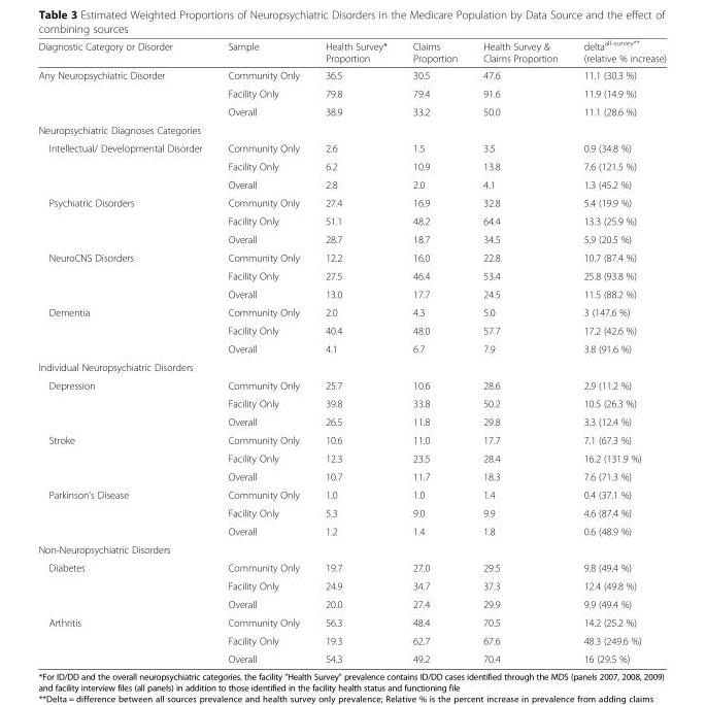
<table><thead><tr><td>Diagnostic Category or Disorder</td><td>Sample</td><td>Health Survey* Proportion</td><td>Claims Proportion</td><td>Health Survey &amp; Claims Proportion</td><td>delta<sup>all-survey**</sup> (relative % increase)</td></tr></thead><tbody><tr><td rowspan="3">Any Neuropsychiatric Disorder</td><td>Community Only</td><td>36.5</td><td>30.5</td><td>47.6</td><td>11.1 (30.3 %)</td></tr><tr><td>Facility Only</td><td>79.8</td><td>79.4</td><td>91.6</td><td>11.9 (14.9 %)</td></tr><tr><td>Overall</td><td>38.9</td><td>33.2</td><td>50.0</td><td>11.1 (28.6 %)</td></tr><tr><td colspan="6">Neuropsychiatric Diagnoses Categories</td></tr><tr><td rowspan="3">Intellectual/ Developmental Disorder</td><td>Community Only</td><td>2.6</td><td>1.5</td><td>3.5</td><td>0.9 (34.8 %)</td></tr><tr><td>Facility Only</td><td>6.2</td><td>10.9</td><td>13.8</td><td>7.6 (121.5 %)</td></tr><tr><td>Overall</td><td>2.8</td><td>2.0</td><td>4.1</td><td>1.3 (45.2 %)</td></tr><tr><td rowspan="3">Psychiatric Disorders</td><td>Community Only</td><td>27.4</td><td>16.9</td><td>32.8</td><td>5.4 (19.9 %)</td></tr><tr><td>Facility Only</td><td>51.1</td><td>48.2</td><td>64.4</td><td>13.3 (25.9 %)</td></tr><tr><td>Overall</td><td>28.7</td><td>18.7</td><td>34.5</td><td>5.9 (20.5 %)</td></tr><tr><td rowspan="3">NeuroCNS Disorders</td><td>Community Only</td><td>12.2</td><td>16.0</td><td>22.8</td><td>10.7 (87.4 %)</td></tr><tr><td>Facility Only</td><td>27.5</td><td>46.4</td><td>53.4</td><td>25.8 (93.8 %)</td></tr><tr><td>Overall</td><td>13.0</td><td>17.7</td><td>24.5</td><td>11.5 (88.2 %)</td></tr><tr><td rowspan="3">Dementia</td><td>Community Only</td><td>2.0</td><td>4.3</td><td>5.0</td><td>3 (147.6 %)</td></tr><tr><td>Facility Only</td><td>40.4</td><td>48.0</td><td>57.7</td><td>17.2 (42.6 %)</td></tr><tr><td>Overall</td><td>4.1</td><td>6.7</td><td>7.9</td><td>3.8 (91.6 %)</td></tr><tr><td colspan="6">Individual Neuropsychiatric Disorders</td></tr><tr><td rowspan="3">Depression</td><td>Community Only</td><td>25.7</td><td>10.6</td><td>28.6</td><td>2.9 (11.2 %)</td></tr><tr><td>Facility Only</td><td>39.8</td><td>33.8</td><td>50.2</td><td>10.5 (26.3 %)</td></tr><tr><td>Overall</td><td>26.5</td><td>11.8</td><td>29.8</td><td>3.3 (12.4 %)</td></tr><tr><td rowspan="3">Stroke</td><td>Community Only</td><td>10.6</td><td>11.0</td><td>17.7</td><td>7.1 (67.3 %)</td></tr><tr><td>Facility Only</td><td>12.3</td><td>23.5</td><td>28.4</td><td>16.2 (131.9 %)</td></tr><tr><td>Overall</td><td>10.7</td><td>11.7</td><td>18.3</td><td>7.6 (71.3 %)</td></tr><tr><td rowspan="3">Parkinson&#x27;s Disease</td><td>Community Only</td><td>1.0</td><td>1.0</td><td>1.4</td><td>0.4 (37.1 %)</td></tr><tr><td>Facility Only</td><td>5.3</td><td>9.0</td><td>9.9</td><td>4.6 (87.4 %)</td></tr><tr><td>Overall</td><td>1.2</td><td>1.4</td><td>1.8</td><td>0.6 (48.9 %)</td></tr><tr><td colspan="6">Non-Neuropsychiatric Disorders</td></tr><tr><td rowspan="3">Diabetes</td><td>Community Only</td><td>19.7</td><td>27.0</td><td>29.5</td><td>9.8 (49.4 %)</td></tr><tr><td>Facility Only</td><td>24.9</td><td>34.7</td><td>37.3</td><td>12.4 (49.8 %)</td></tr><tr><td>Overall</td><td>20.0</td><td>27.4</td><td>29.9</td><td>9.9 (49.4 %)</td></tr><tr><td rowspan="3">Arthritis</td><td>Community Only</td><td>56.3</td><td>48.4</td><td>70.5</td><td>14.2 (25.2 %)</td></tr><tr><td>Facility Only</td><td>19.3</td><td>62.7</td><td>67.6</td><td>48.3 (249.6 %)</td></tr><tr><td>Overall</td><td>54.3</td><td>49.2</td><td>70.4</td><td>16 (29.5 %)</td></tr></tbody></table>